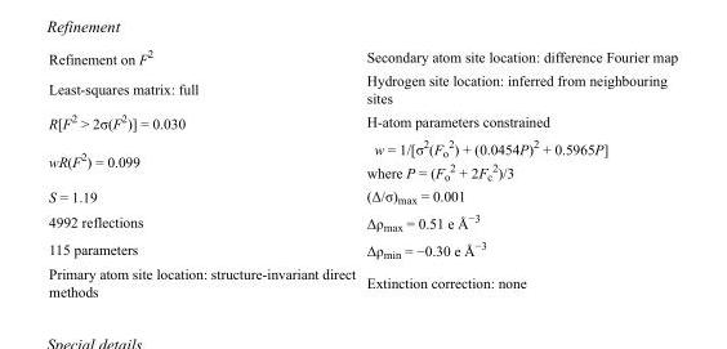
<table><tbody><tr><td>Refinement on F<sup>2</sup></td><td>Secondary atom site location: difference Fourier map</td></tr><tr><td>Least-squares matrix: full</td><td>Hydrogen site location: inferred from neighbouring sites</td></tr><tr><td>R[F<sup>2</sup> &gt; 2σ(F<sup>2</sup>)] = 0.030</td><td>H-atom parameters constrained</td></tr><tr><td>wR(F<sup>2</sup>) = 0.099</td><td>w = 1/[σ<sup>2</sup>(F<sub>o</sub> <sup>2</sup>) + (0.0454P)<sup>2</sup> + 0.5965P] where P = (F<sub>o</sub> <sup>2</sup> + 2F<sub>c</sub> <sup>2</sup>)/3</td></tr><tr><td>S = 1.19</td><td>(Δ/σ)<sub>max</sub> = 0.001</td></tr><tr><td>4992 reflections</td><td>Δρ<sub>max</sub> = 0.51 e Å<sup>−3</sup></td></tr><tr><td>115 parameters</td><td>Δρ<sub>min</sub> = −0.30 e Å<sup>−3</sup></td></tr><tr><td>Primary atom site location: structure-invariant direct methods</td><td>Extinction correction: none</td></tr></tbody></table>